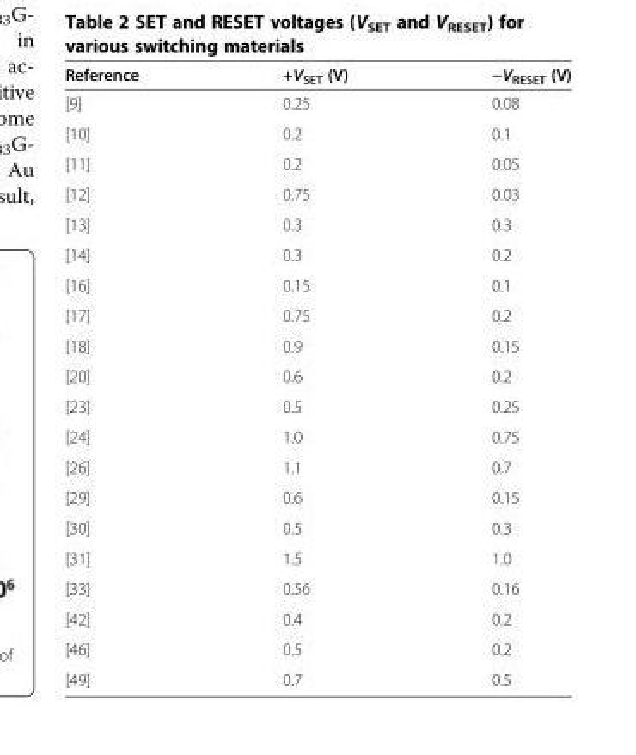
<table><thead><tr><td>Reference</td><td>+V<sub>SET</sub> (V)</td><td>−V<sub>RESET</sub> (V)</td></tr></thead><tbody><tr><td>[9]</td><td>0.25</td><td>0.08</td></tr><tr><td>[10]</td><td>0.2</td><td>0.1</td></tr><tr><td>[11]</td><td>0.2</td><td>0.05</td></tr><tr><td>[12]</td><td>0.75</td><td>0.03</td></tr><tr><td>[13]</td><td>0.3</td><td>0.3</td></tr><tr><td>[14]</td><td>0.3</td><td>0.2</td></tr><tr><td>[16]</td><td>0.15</td><td>0.1</td></tr><tr><td>[17]</td><td>0.75</td><td>0.2</td></tr><tr><td>[18]</td><td>0.9</td><td>0.15</td></tr><tr><td>[20]</td><td>0.6</td><td>0.2</td></tr><tr><td>[23]</td><td>0.5</td><td>0.25</td></tr><tr><td>[24]</td><td>1.0</td><td>0.75</td></tr><tr><td>[26]</td><td>1.1</td><td>0.7</td></tr><tr><td>[29]</td><td>0.6</td><td>0.15</td></tr><tr><td>[30]</td><td>0.5</td><td>0.3</td></tr><tr><td>[31]</td><td>1.5</td><td>1.0</td></tr><tr><td>[33]</td><td>0.56</td><td>0.16</td></tr><tr><td>[42]</td><td>0.4</td><td>0.2</td></tr><tr><td>[46]</td><td>0.5</td><td>0.2</td></tr><tr><td>[49]</td><td>0.7</td><td>0.5</td></tr></tbody></table>